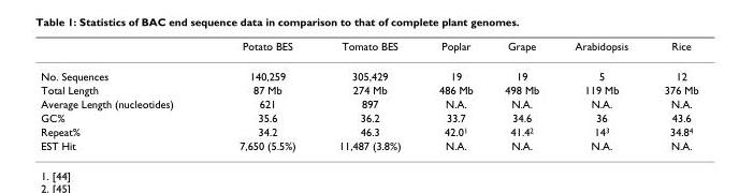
<table><thead><tr><td></td><td>Potato BES</td><td>Tomato BES</td><td>Poplar</td><td>Grape</td><td>Arabidopsis</td><td>Rice</td></tr></thead><tbody><tr><td>No. Sequences</td><td>140,259</td><td>305,429</td><td>19</td><td>19</td><td>5</td><td>12</td></tr><tr><td>Total Length</td><td>87 Mb</td><td>274 Mb</td><td>486 Mb</td><td>498 Mb</td><td>119 Mb</td><td>376 Mb</td></tr><tr><td>Average Length (nucleotides)</td><td>621</td><td>897</td><td>N.A.</td><td>N.A.</td><td>N.A.</td><td>N.A.</td></tr><tr><td>GC%</td><td>35.6</td><td>36.2</td><td>33.7</td><td>34.6</td><td>36</td><td>43.6</td></tr><tr><td>Repeat%</td><td>34.2</td><td>46.3</td><td>42.0<sup>1</sup></td><td>41.4<sup>2</sup></td><td>14<sup>3</sup></td><td>34.8<sup>4</sup></td></tr><tr><td>EST Hit</td><td>7,650 (5.5%)</td><td>11,487 (3.8%)</td><td>N.A.</td><td>N.A.</td><td>N.A.</td><td>N.A.</td></tr></tbody></table>